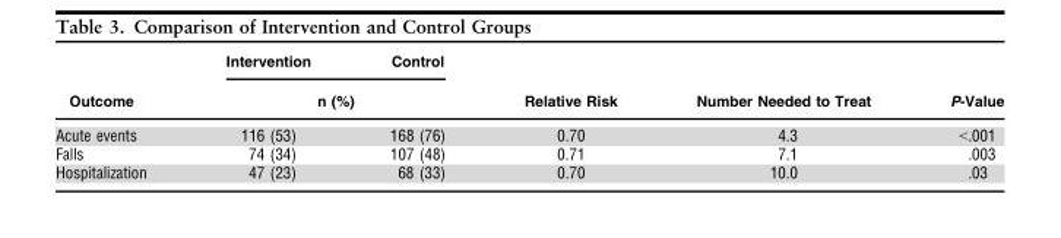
<table><thead><tr><td rowspan="2">Outcome</td><td>Intervention</td><td>Control</td><td rowspan="2">Relative Risk</td><td rowspan="2">Number Needed to Treat</td><td rowspan="2">P-Value</td></tr><tr><td colspan="2">n (%)</td></tr></thead><tbody><tr><td>Acute events</td><td>116 (53)</td><td>168 (76)</td><td>0.70</td><td>4.3</td><td>&lt;.001</td></tr><tr><td>Falls</td><td>74 (34)</td><td>107 (48)</td><td>0.71</td><td>7.1</td><td>.003</td></tr><tr><td>Hospitalization</td><td>47 (23)</td><td>68 (33)</td><td>0.70</td><td>10.0</td><td>.03</td></tr></tbody></table>